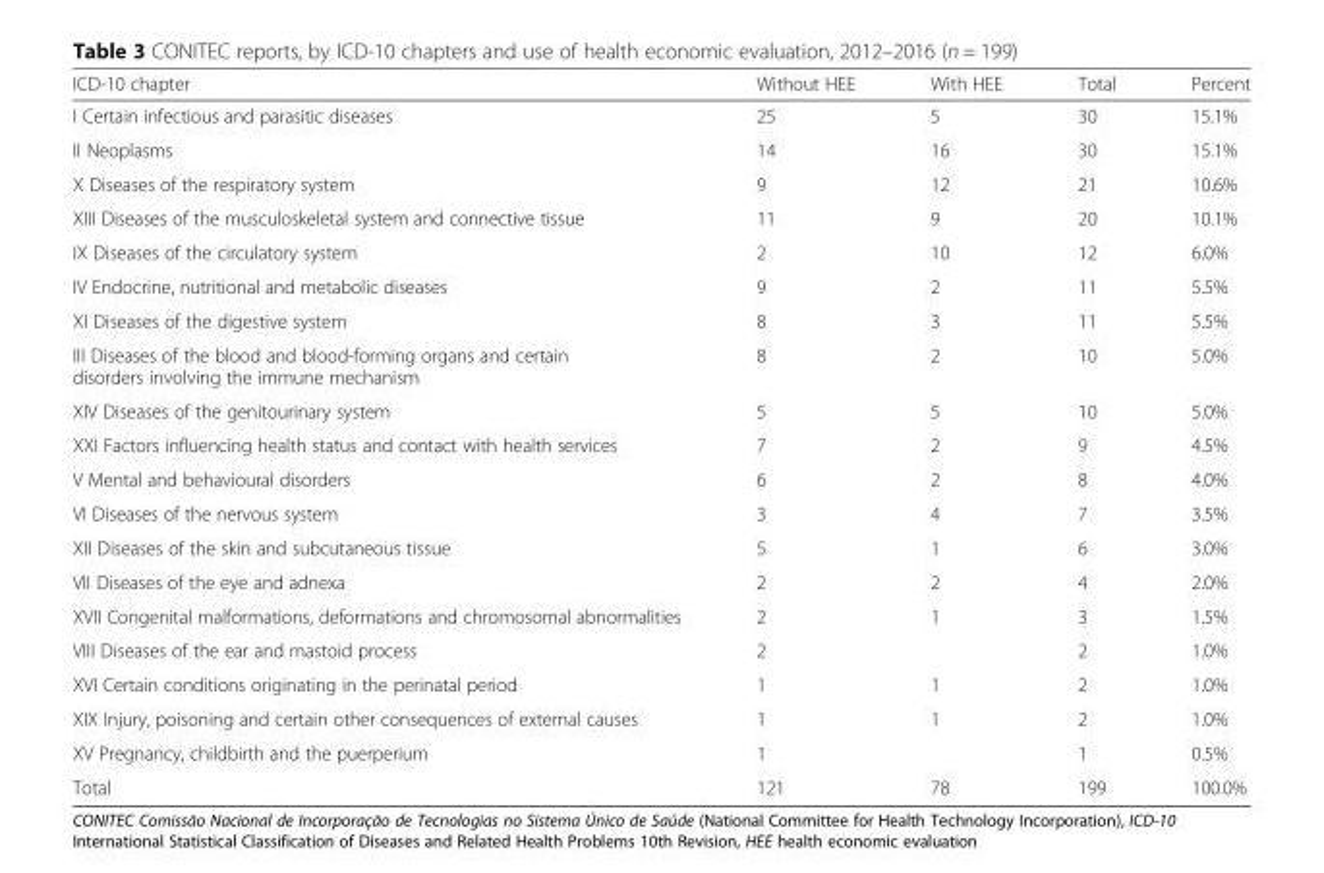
<table><thead><tr><td>ICD-10 chapter</td><td>Without HEE</td><td>With HEE</td><td>Total</td><td>Percent</td></tr></thead><tbody><tr><td>I Certain infectious and parasitic diseases</td><td>25</td><td>5</td><td>30</td><td>15.1%</td></tr><tr><td>II Neoplasms</td><td>14</td><td>16</td><td>30</td><td>15.1%</td></tr><tr><td>X Diseases of the respiratory system</td><td>9</td><td>12</td><td>21</td><td>10.6%</td></tr><tr><td>XIII Diseases of the musculoskeletal system and connective tissue</td><td>11</td><td>9</td><td>20</td><td>10.1%</td></tr><tr><td>IX Diseases of the circulatory system</td><td>2</td><td>10</td><td>12</td><td>6.0%</td></tr><tr><td>IV Endocrine, nutritional and metabolic diseases</td><td>9</td><td>2</td><td>11</td><td>5.5%</td></tr><tr><td>XI Diseases of the digestive system</td><td>8</td><td>3</td><td>11</td><td>5.5%</td></tr><tr><td>III Diseases of the blood and blood-forming organs and certain disorders involving the immune mechanism</td><td>8</td><td>2</td><td>10</td><td>5.0%</td></tr><tr><td>XIV Diseases of the genitourinary system</td><td>5</td><td>5</td><td>10</td><td>5.0%</td></tr><tr><td>XXI Factors influencing health status and contact with health services</td><td>7</td><td>2</td><td>9</td><td>4.5%</td></tr><tr><td>V Mental and behavioural disorders</td><td>6</td><td>2</td><td>8</td><td>4.0%</td></tr><tr><td>VI Diseases of the nervous system</td><td>3</td><td>4</td><td>7</td><td>3.5%</td></tr><tr><td>XII Diseases of the skin and subcutaneous tissue</td><td>5</td><td>1</td><td>6</td><td>3.0%</td></tr><tr><td>VII Diseases of the eye and adnexa</td><td>2</td><td>2</td><td>4</td><td>2.0%</td></tr><tr><td>XVII Congenital malformations, deformations and chromosomal abnormalities</td><td>2</td><td>1</td><td>3</td><td>1.5%</td></tr><tr><td>VIII Diseases of the ear and mastoid process</td><td>2</td><td></td><td>2</td><td>1.0%</td></tr><tr><td>XVI Certain conditions originating in the perinatal period</td><td>1</td><td>1</td><td>2</td><td>1.0%</td></tr><tr><td>XIX Injury, poisoning and certain other consequences of external causes</td><td>1</td><td>1</td><td>2</td><td>1.0%</td></tr><tr><td>XV Pregnancy, childbirth and the puerperium</td><td>1</td><td></td><td>1</td><td>0.5%</td></tr><tr><td>Total</td><td>121</td><td>78</td><td>199</td><td>100.0%</td></tr></tbody></table>